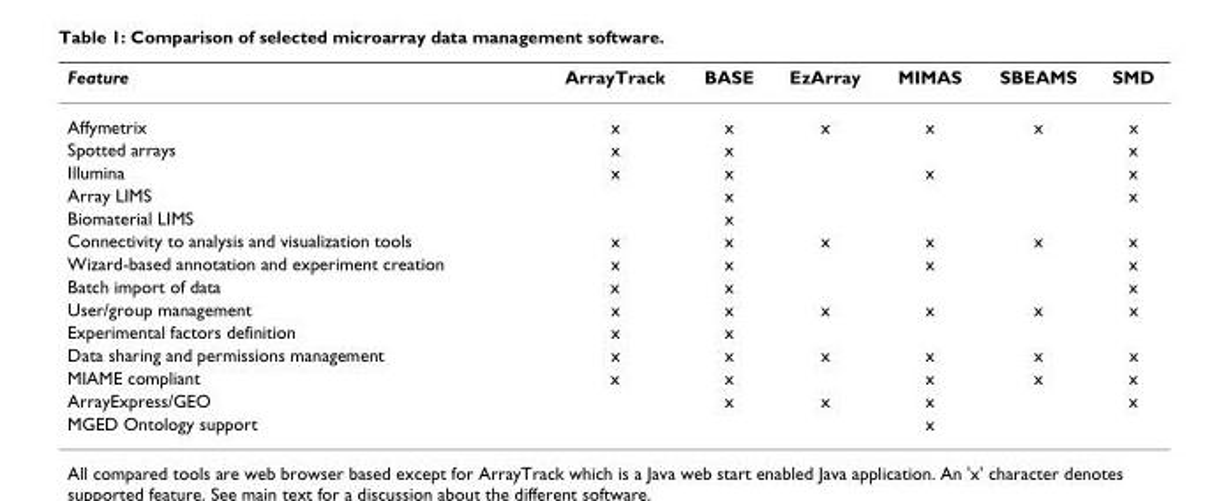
<table><thead><tr><td>Feature</td><td>ArrayTrack</td><td>BASE</td><td>EzArray</td><td>MIMAS</td><td>SBEAMS</td><td>SMD</td></tr></thead><tbody><tr><td>Affymetrix</td><td>x</td><td>x</td><td>x</td><td>x</td><td>x</td><td>x</td></tr><tr><td>Spotted arrays</td><td>x</td><td>x</td><td></td><td></td><td></td><td>x</td></tr><tr><td>Illumina</td><td>x</td><td>x</td><td></td><td>x</td><td></td><td>x</td></tr><tr><td>Array LIMS</td><td></td><td>x</td><td></td><td></td><td></td><td>x</td></tr><tr><td>Biomaterial LIMS</td><td></td><td>x</td><td></td><td></td><td></td><td></td></tr><tr><td>Connectivity to analysis and visualization tools</td><td>x</td><td>x</td><td>x</td><td>x</td><td>x</td><td>x</td></tr><tr><td>Wizard-based annotation and experiment creation</td><td>x</td><td>x</td><td></td><td>x</td><td></td><td>x</td></tr><tr><td>Batch import of data</td><td>x</td><td>x</td><td></td><td></td><td></td><td>x</td></tr><tr><td>User/group management</td><td>x</td><td>x</td><td>x</td><td>x</td><td>x</td><td>x</td></tr><tr><td>Experimental factors definition</td><td>x</td><td>x</td><td></td><td></td><td></td><td></td></tr><tr><td>Data sharing and permissions management</td><td>x</td><td>x</td><td>x</td><td>x</td><td>x</td><td>x</td></tr><tr><td>MIAME compliant</td><td>x</td><td>x</td><td></td><td>x</td><td>x</td><td>x</td></tr><tr><td>ArrayExpress/GEO</td><td></td><td>x</td><td>x</td><td>x</td><td></td><td>x</td></tr><tr><td>MGED Ontology support</td><td></td><td></td><td></td><td>x</td><td></td><td></td></tr></tbody></table>